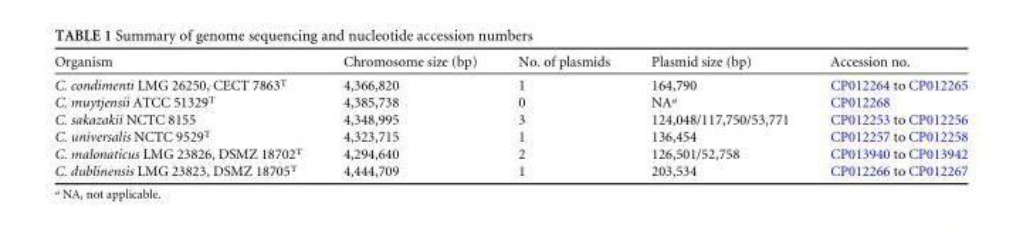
<table><thead><tr><td>Organism</td><td>Chromosome size (bp)</td><td>No. of plasmids</td><td>Plasmid size (bp)</td><td>Accession no.</td></tr></thead><tbody><tr><td>C. condimenti LMG 26250, CECT 7863<sup>T</sup></td><td>4,366,820</td><td>1</td><td>164,790</td><td>CP012264 to CP012265</td></tr><tr><td>C. muytjensii ATCC 51329<sup>T</sup></td><td>4,385,738</td><td>0</td><td>NA<sup>a</sup></td><td>CP012268</td></tr><tr><td>C. sakazakii NCTC 8155</td><td>4,348,995</td><td>3</td><td>124,048/117,750/53,771</td><td>CP012253 to CP012256</td></tr><tr><td>C. universalis NCTC 9529<sup>T</sup></td><td>4,323,715</td><td>1</td><td>136,454</td><td>CP012257 to CP012258</td></tr><tr><td>C. malonaticus LMG 23826, DSMZ 18702<sup>T</sup></td><td>4,294,640</td><td>2</td><td>126,501/52,758</td><td>CP013940 to CP013942</td></tr><tr><td>C. dublinensis LMG 23823, DSMZ 18705<sup>T</sup></td><td>4,444,709</td><td>1</td><td>203,534</td><td>CP012266 to CP012267</td></tr></tbody></table>